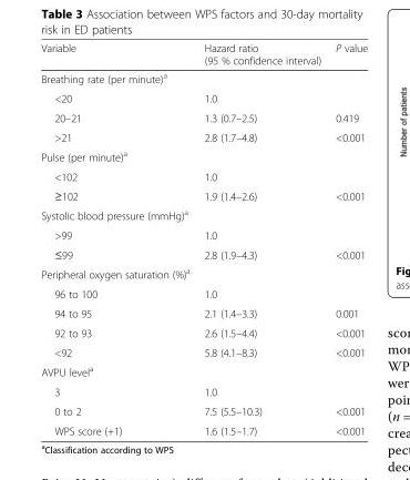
<table><thead><tr><td>Variable</td><td>Hazard ratio (95 % confidence interval)</td><td>P value</td></tr></thead><tbody><tr><td colspan="3">Breathing rate (per minute)<sup>a</sup></td></tr><tr><td>&lt;20</td><td>1.0</td><td></td></tr><tr><td>20–21</td><td>1.3 (0.7–2.5)</td><td>0.419</td></tr><tr><td>&gt;21</td><td>2.8 (1.7–4.8)</td><td>&lt;0.001</td></tr><tr><td colspan="3">Pulse (per minute)<sup>a</sup></td></tr><tr><td>&lt;102</td><td>1.0</td><td></td></tr><tr><td>≥102</td><td>1.9 (1.4–2.6)</td><td>&lt;0.001</td></tr><tr><td colspan="3">Systolic blood pressure (mmHg)<sup>a</sup></td></tr><tr><td>&gt;99</td><td>1.0</td><td></td></tr><tr><td>≤99</td><td>2.8 (1.9–4.3)</td><td>&lt;0.001</td></tr><tr><td colspan="3">Peripheral oxygen saturation (%)<sup>a</sup></td></tr><tr><td>96 to 100</td><td>1.0</td><td></td></tr><tr><td>94 to 95</td><td>2.1 (1.4–3.3)</td><td>0.001</td></tr><tr><td>92 to 93</td><td>2.6 (1.5–4.4)</td><td>&lt;0.001</td></tr><tr><td>&lt;92</td><td>5.8 (4.1–8.3)</td><td>&lt;0.001</td></tr><tr><td colspan="3">AVPU level<sup>a</sup></td></tr><tr><td>3</td><td>1.0</td><td></td></tr><tr><td>0 to 2</td><td>7.5 (5.5–10.3)</td><td>&lt;0.001</td></tr><tr><td>WPS score (+1)</td><td>1.6 (1.5–1.7)</td><td>&lt;0.001</td></tr></tbody></table>